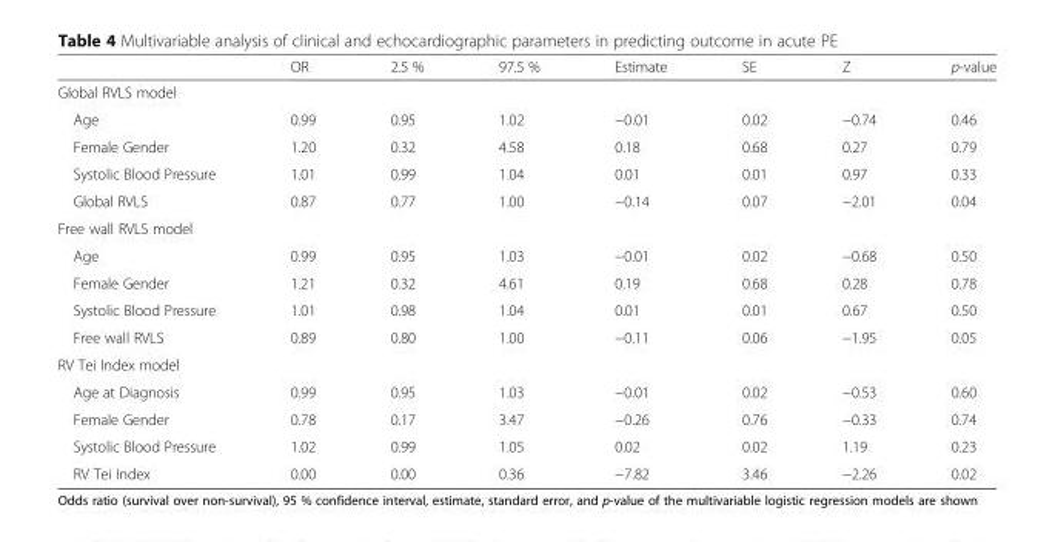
<table><thead><tr><td></td><td>OR</td><td>2.5 %</td><td>97.5 %</td><td>Estimate</td><td>SE</td><td>Z</td><td>p-value</td></tr></thead><tbody><tr><td colspan="8">Global RVLS model</td></tr><tr><td>Age</td><td>0.99</td><td>0.95</td><td>1.02</td><td>−0.01</td><td>0.02</td><td>−0.74</td><td>0.46</td></tr><tr><td>Female Gender</td><td>1.20</td><td>0.32</td><td>4.58</td><td>0.18</td><td>0.68</td><td>0.27</td><td>0.79</td></tr><tr><td>Systolic Blood Pressure</td><td>1.01</td><td>0.99</td><td>1.04</td><td>0.01</td><td>0.01</td><td>0.97</td><td>0.33</td></tr><tr><td>Global RVLS</td><td>0.87</td><td>0.77</td><td>1.00</td><td>−0.14</td><td>0.07</td><td>−2.01</td><td>0.04</td></tr><tr><td colspan="8">Free wall RVLS model</td></tr><tr><td>Age</td><td>0.99</td><td>0.95</td><td>1.03</td><td>−0.01</td><td>0.02</td><td>−0.68</td><td>0.50</td></tr><tr><td>Female Gender</td><td>1.21</td><td>0.32</td><td>4.61</td><td>0.19</td><td>0.68</td><td>0.28</td><td>0.78</td></tr><tr><td>Systolic Blood Pressure</td><td>1.01</td><td>0.98</td><td>1.04</td><td>0.01</td><td>0.01</td><td>0.67</td><td>0.50</td></tr><tr><td>Free wall RVLS</td><td>0.89</td><td>0.80</td><td>1.00</td><td>−0.11</td><td>0.06</td><td>−1.95</td><td>0.05</td></tr><tr><td colspan="8">RV Tei Index model</td></tr><tr><td>Age at Diagnosis</td><td>0.99</td><td>0.95</td><td>1.03</td><td>−0.01</td><td>0.02</td><td>−0.53</td><td>0.60</td></tr><tr><td>Female Gender</td><td>0.78</td><td>0.17</td><td>3.47</td><td>−0.26</td><td>0.76</td><td>−0.33</td><td>0.74</td></tr><tr><td>Systolic Blood Pressure</td><td>1.02</td><td>0.99</td><td>1.05</td><td>0.02</td><td>0.02</td><td>1.19</td><td>0.23</td></tr><tr><td>RV Tei Index</td><td>0.00</td><td>0.00</td><td>0.36</td><td>−7.82</td><td>3.46</td><td>−2.26</td><td>0.02</td></tr></tbody></table>